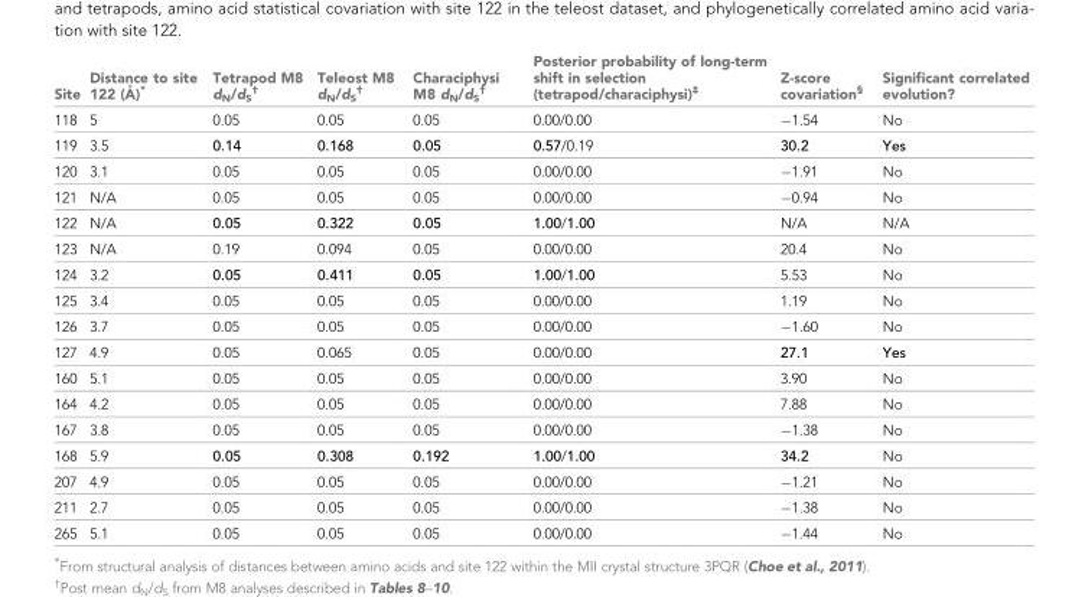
<table><thead><tr><td>Site</td><td>Distance to site 122 (A˚ )*</td><td>Tetrapod M8 d<sub>N</sub>/d<sub>S </sub><sup><sub>†</sub></sup></td><td>Teleost M8 d<sub>N</sub>/d<sub>S</sub> <sup>†</sup></td><td>Characiphysi M8 d<sub>N</sub>/d<sub>S </sub><sup><sub>†</sub></sup></td><td>Posterior probability of long-term shift in selection (tetrapod/characiphysi)<sup>‡</sup></td><td>Z-score covariation<sup>§</sup></td><td>Significant correlated evolution?</td></tr></thead><tbody><tr><td>118</td><td>5</td><td>0.05</td><td>0.05</td><td>0.05</td><td>0.00/0.00</td><td>−1.54</td><td>No</td></tr><tr><td>119</td><td>3.5</td><td>0.14</td><td>0.168</td><td>0.05</td><td>0.57/0.19</td><td>30.2</td><td>Yes</td></tr><tr><td>120</td><td>3.1</td><td>0.05</td><td>0.05</td><td>0.05</td><td>0.00/0.00</td><td>−1.91</td><td>No</td></tr><tr><td>121</td><td>N/A</td><td>0.05</td><td>0.05</td><td>0.05</td><td>0.00/0.00</td><td>−0.94</td><td>No</td></tr><tr><td>122</td><td>N/A</td><td>0.05</td><td>0.322</td><td>0.05</td><td>1.00/1.00</td><td>N/A</td><td>N/A</td></tr><tr><td>123</td><td>N/A</td><td>0.19</td><td>0.094</td><td>0.05</td><td>0.00/0.00</td><td>20.4</td><td>No</td></tr><tr><td>124</td><td>3.2</td><td>0.05</td><td>0.411</td><td>0.05</td><td>1.00/1.00</td><td>5.53</td><td>No</td></tr><tr><td>125</td><td>3.4</td><td>0.05</td><td>0.05</td><td>0.05</td><td>0.00/0.00</td><td>1.19</td><td>No</td></tr><tr><td>126</td><td>3.7</td><td>0.05</td><td>0.05</td><td>0.05</td><td>0.00/0.00</td><td>−1.60</td><td>No</td></tr><tr><td>127</td><td>4.9</td><td>0.05</td><td>0.065</td><td>0.05</td><td>0.00/0.00</td><td>27.1</td><td>Yes</td></tr><tr><td>160</td><td>5.1</td><td>0.05</td><td>0.05</td><td>0.05</td><td>0.00/0.00</td><td>3.90</td><td>No</td></tr><tr><td>164</td><td>4.2</td><td>0.05</td><td>0.05</td><td>0.05</td><td>0.00/0.00</td><td>7.88</td><td>No</td></tr><tr><td>167</td><td>3.8</td><td>0.05</td><td>0.05</td><td>0.05</td><td>0.00/0.00</td><td>−1.38</td><td>No</td></tr><tr><td>168</td><td>5.9</td><td>0.05</td><td>0.308</td><td>0.192</td><td>1.00/1.00</td><td>34.2</td><td>No</td></tr><tr><td>207</td><td>4.9</td><td>0.05</td><td>0.05</td><td>0.05</td><td>0.00/0.00</td><td>−1.21</td><td>No</td></tr><tr><td>211</td><td>2.7</td><td>0.05</td><td>0.05</td><td>0.05</td><td>0.00/0.00</td><td>−1.38</td><td>No</td></tr><tr><td>265</td><td>5.1</td><td>0.05</td><td>0.05</td><td>0.05</td><td>0.00/0.00</td><td>−1.44</td><td>No</td></tr></tbody></table>